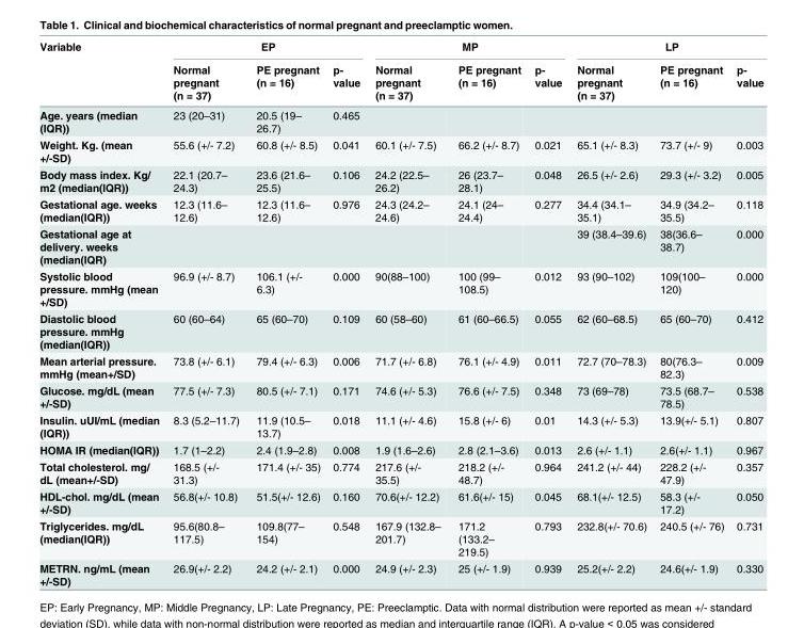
<table><thead><tr><td rowspan="2">Variable</td><td colspan="3">EP</td><td colspan="3">MP</td><td colspan="3">LP</td></tr><tr><td>Normal pregnant (n = 37)</td><td>PE pregnant (n = 16)</td><td>p- value</td><td>Normal pregnant (n = 37)</td><td>PE pregnant (n = 16)</td><td>p- value</td><td>Normal pregnant (n = 37)</td><td>PE pregnant (n = 16)</td><td>p- value</td></tr></thead><tbody><tr><td>Age. years (median (IQR))</td><td>23 (20–31)</td><td>20.5 (19– 26.7)</td><td>0.465</td><td></td><td></td><td></td><td></td><td></td><td></td></tr><tr><td>Weight. Kg. (mean +/-SD)</td><td>55.6 (+/- 7.2)</td><td>60.8 (+/- 8.5)</td><td>0.041</td><td>60.1 (+/- 7.5)</td><td>66.2 (+/- 8.7)</td><td>0.021</td><td>65.1 (+/- 8.3)</td><td>73.7 (+/- 9)</td><td>0.003</td></tr><tr><td>Body mass index. Kg/ m2 (median(IQR))</td><td>22.1 (20.7– 24.3)</td><td>23.6 (21.6– 25.5)</td><td>0.106</td><td>24.2 (22.5– 26.2)</td><td>26 (23.7– 28.1)</td><td>0.048</td><td>26.5 (+/- 2.6)</td><td>29.3 (+/- 3.2)</td><td>0.005</td></tr><tr><td>Gestational age. weeks (median(IQR))</td><td>12.3 (11.6– 12.6)</td><td>12.3 (11.6– 12.6)</td><td>0.976</td><td>24.3 (24.2– 24.6)</td><td>24.1 (24– 24.4)</td><td>0.277</td><td>34.4 (34.1– 35.1)</td><td>34.9 (34.2– 35.5)</td><td>0.118</td></tr><tr><td>Gestational age at delivery. weeks (median(IQR)</td><td></td><td></td><td></td><td></td><td></td><td></td><td>39 (38.4–39.6)</td><td>38(36.6– 38.7)</td><td>0.000</td></tr><tr><td>Systolic blood pressure. mmHg (mean +/SD)</td><td>96.9 (+/- 8.7)</td><td>106.1 (+/- 6.3)</td><td>0.000</td><td>90(88–100)</td><td>100 (99– 108.5)</td><td>0.012</td><td>93 (90–102)</td><td>109(100– 120)</td><td>0.000</td></tr><tr><td>Diastolic blood pressure. mmHg (median(IQR))</td><td>60 (60–64)</td><td>65 (60–70)</td><td>0.109</td><td>60 (58–60)</td><td>61 (60–66.5)</td><td>0.055</td><td>62 (60–68.5)</td><td>65 (60–70)</td><td>0.412</td></tr><tr><td>Mean arterial pressure. mmHg (mean+/SD)</td><td>73.8 (+/- 6.1)</td><td>79.4 (+/- 6.3)</td><td>0.006</td><td>71.7 (+/- 6.8)</td><td>76.1 (+/- 4.9)</td><td>0.011</td><td>72.7 (70–78.3)</td><td>80(76.3– 82.3)</td><td>0.009</td></tr><tr><td>Glucose. mg/dL (mean +/-SD)</td><td>77.5 (+/- 7.3)</td><td>80.5 (+/- 7.1)</td><td>0.171</td><td>74.6 (+/- 5.3)</td><td>76.6 (+/- 7.5)</td><td>0.348</td><td>73 (69–78)</td><td>73.5 (68.7– 78.5)</td><td>0.538</td></tr><tr><td>Insulin. uUI/mL (median (IQR))</td><td>8.3 (5.2–11.7)</td><td>11.9 (10.5– 13.7)</td><td>0.018</td><td>11.1 (+/- 4.6)</td><td>15.8 (+/- 6)</td><td>0.01</td><td>14.3 (+/- 5.3)</td><td>13.9(+/- 5.1)</td><td>0.807</td></tr><tr><td>HOMA IR (median(IQR))</td><td>1.7 (1–2.2)</td><td>2.4 (1.9–2.8)</td><td>0.008</td><td>1.9 (1.6–2.6)</td><td>2.8 (2.1–3.6)</td><td>0.013</td><td>2.6 (+/- 1.1)</td><td>2.6(+/- 1.1)</td><td>0.967</td></tr><tr><td>Total cholesterol. mg/ dL (mean+/-SD)</td><td>168.5 (+/- 31.3)</td><td>171.4 (+/- 35)</td><td>0.774</td><td>217.6 (+/- 35.5)</td><td>218.2 (+/- 48.7)</td><td>0.964</td><td>241.2 (+/- 44)</td><td>228.2 (+/- 47.9)</td><td>0.357</td></tr><tr><td>HDL-chol. mg/dL (mean +/-SD)</td><td>56.8(+/- 10.8)</td><td>51.5(+/- 12.6)</td><td>0.160</td><td>70.6(+/- 12.2)</td><td>61.6(+/- 15)</td><td>0.045</td><td>68.1(+/- 12.5)</td><td>58.3 (+/- 17.2)</td><td>0.050</td></tr><tr><td>Triglycerides. mg/dL (median(IQR))</td><td>95.6(80.8– 117.5)</td><td>109.8(77– 154)</td><td>0.548</td><td>167.9 (132.8– 201.7)</td><td>171.2 (133.2– 219.5)</td><td>0.793</td><td>232.8(+/- 70.6)</td><td>240.5 (+/- 76)</td><td>0.731</td></tr><tr><td>METRN. ng/mL (mean +/-SD)</td><td>26.9(+/- 2.2)</td><td>24.2 (+/- 2.1)</td><td>0.000</td><td>24.9 (+/- 2.3)</td><td>25 (+/- 1.9)</td><td>0.939</td><td>25.2(+/- 2.2)</td><td>24.6(+/- 1.9)</td><td>0.330</td></tr></tbody></table>